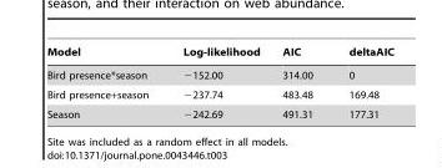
<table><thead><tr><td>Model</td><td>Log-likelihood</td><td>AIC</td><td>deltaAIC</td></tr></thead><tbody><tr><td>Bird presence*season</td><td>−152.00</td><td>314.00</td><td>0</td></tr><tr><td>Bird presence+season</td><td>−237.74</td><td>483.48</td><td>169.48</td></tr><tr><td>Season</td><td>−242.69</td><td>491.31</td><td>177.31</td></tr></tbody></table>